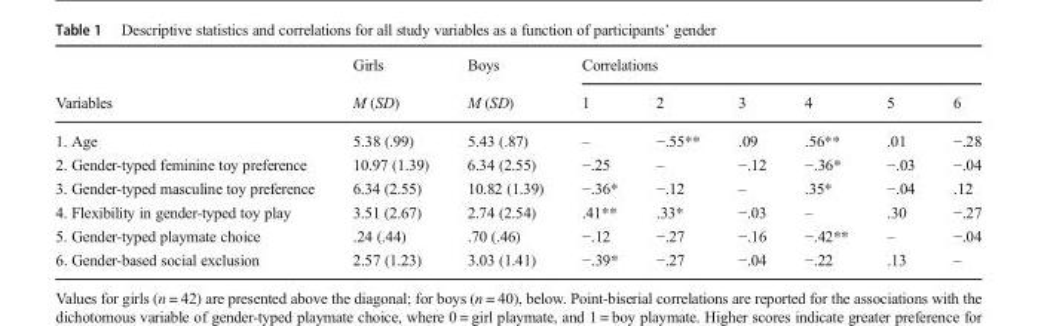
<table><thead><tr><td rowspan="2">Variables</td><td rowspan="2">Girls M (SD)</td><td rowspan="2">Boys M (SD)</td><td colspan="6">Correlations</td></tr><tr><td>1</td><td>2</td><td>3</td><td>4</td><td>5</td><td>6</td></tr></thead><tbody><tr><td>1. Age</td><td>5.38 (.99)</td><td>5.43 (.87)</td><td>–</td><td>−.55**</td><td>.09</td><td>.56**</td><td>.01</td><td>−.28</td></tr><tr><td>2. Gender-typed feminine toy preference</td><td>10.97 (1.39)</td><td>6.34 (2.55)</td><td>−.25</td><td>–</td><td>−.12</td><td>−.36*</td><td>−.03</td><td>−.04</td></tr><tr><td>3. Gender-typed masculine toy preference</td><td>6.34 (2.55)</td><td>10.82 (1.39)</td><td>−.36*</td><td>−.12</td><td>–</td><td>.35*</td><td>−.04</td><td>.12</td></tr><tr><td>4. Flexibility in gender-typed toy play</td><td>3.51 (2.67)</td><td>2.74 (2.54)</td><td>.41**</td><td>.33*</td><td>−.03</td><td>–</td><td>.30</td><td>−.27</td></tr><tr><td>5. Gender-typed playmate choice</td><td>.24 (.44)</td><td>.70 (.46)</td><td>−.12</td><td>−.27</td><td>−.16</td><td>−.42**</td><td>–</td><td>−.04</td></tr><tr><td>6. Gender-based social exclusion</td><td>2.57 (1.23)</td><td>3.03 (1.41)</td><td>−.39*</td><td>−.27</td><td>−.04</td><td>−.22</td><td>.13</td><td>–</td></tr></tbody></table>